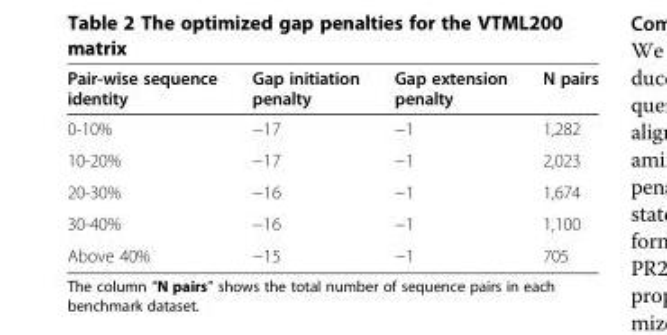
<table><thead><tr><td>Pair-wise sequence identity</td><td>Gap initiation penalty</td><td>Gap extension penalty</td><td>N pairs</td></tr></thead><tbody><tr><td>0-10%</td><td>−17</td><td>−1</td><td>1,282</td></tr><tr><td>10-20%</td><td>−17</td><td>−1</td><td>2,023</td></tr><tr><td>20-30%</td><td>−16</td><td>−1</td><td>1,674</td></tr><tr><td>30-40%</td><td>−16</td><td>−1</td><td>1,100</td></tr><tr><td>Above 40%</td><td>−15</td><td>−1</td><td>705</td></tr></tbody></table>